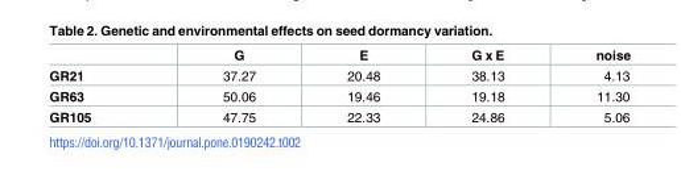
<table><thead><tr><td></td><td>G</td><td>E</td><td>G x E</td><td>noise</td></tr></thead><tbody><tr><td>GR21</td><td>37.27</td><td>20.48</td><td>38.13</td><td>4.13</td></tr><tr><td>GR63</td><td>50.06</td><td>19.46</td><td>19.18</td><td>11.30</td></tr><tr><td>GR105</td><td>47.75</td><td>22.33</td><td>24.86</td><td>5.06</td></tr></tbody></table>